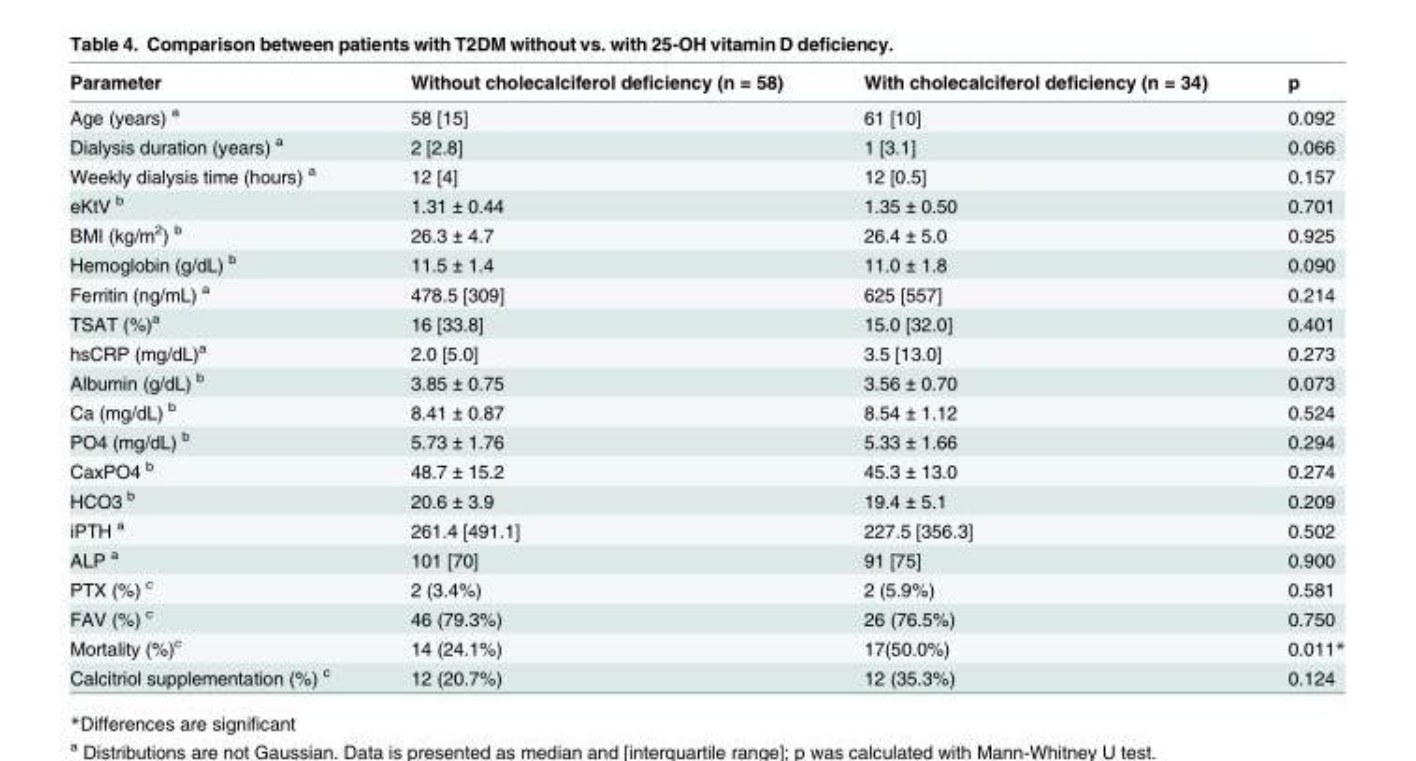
<table><thead><tr><td>Parameter</td><td>Without cholecalciferol deficiency (n = 58)</td><td>With cholecalciferol deficiency (n = 34)</td><td>p</td></tr></thead><tbody><tr><td>Age (years) <sup>a</sup></td><td>58 [15]</td><td>61 [10]</td><td>0.092</td></tr><tr><td>Dialysis duration (years) <sup>a</sup></td><td>2 [2.8]</td><td>1 [3.1]</td><td>0.066</td></tr><tr><td>Weekly dialysis time (hours) <sup>a</sup></td><td>12 [4]</td><td>12 [0.5]</td><td>0.157</td></tr><tr><td>eKtV <sup>b</sup></td><td>1.31 ± 0.44</td><td>1.35 ± 0.50</td><td>0.701</td></tr><tr><td>BMI (kg/m<sup>2</sup>) <sup>b</sup></td><td>26.3 ± 4.7</td><td>26.4 ± 5.0</td><td>0.925</td></tr><tr><td>Hemoglobin (g/dL) <sup>b</sup></td><td>11.5 ± 1.4</td><td>11.0 ± 1.8</td><td>0.090</td></tr><tr><td>Ferritin (ng/mL) <sup>a</sup></td><td>478.5 [309]</td><td>625 [557]</td><td>0.214</td></tr><tr><td>TSAT (%)<sup>a</sup></td><td>16 [33.8]</td><td>15.0 [32.0]</td><td>0.401</td></tr><tr><td>hsCRP (mg/dL)<sup>a</sup></td><td>2.0 [5.0]</td><td>3.5 [13.0]</td><td>0.273</td></tr><tr><td>Albumin (g/dL) <sup>b</sup></td><td>3.85 ± 0.75</td><td>3.56 ± 0.70</td><td>0.073</td></tr><tr><td>Ca (mg/dL) <sup>b</sup></td><td>8.41 ± 0.87</td><td>8.54 ± 1.12</td><td>0.524</td></tr><tr><td>PO4 (mg/dL) <sup>b</sup></td><td>5.73 ± 1.76</td><td>5.33 ± 1.66</td><td>0.294</td></tr><tr><td>CaxPO4 <sup>b</sup></td><td>48.7 ± 15.2</td><td>45.3 ± 13.0</td><td>0.274</td></tr><tr><td>HCO3 <sup>b</sup></td><td>20.6 ± 3.9</td><td>19.4 ± 5.1</td><td>0.209</td></tr><tr><td>iPTH <sup>a</sup></td><td>261.4 [491.1]</td><td>227.5 [356.3]</td><td>0.502</td></tr><tr><td>ALP <sup>a</sup></td><td>101 [70]</td><td>91 [75]</td><td>0.900</td></tr><tr><td>PTX (%) <sup>c</sup></td><td>2 (3.4%)</td><td>2 (5.9%)</td><td>0.581</td></tr><tr><td>FAV (%) <sup>c</sup></td><td>46 (79.3%)</td><td>26 (76.5%)</td><td>0.750</td></tr><tr><td>Mortality (%)<sup>c</sup></td><td>14 (24.1%)</td><td>17(50.0%)</td><td>0.011*</td></tr><tr><td>Calcitriol supplementation (%) <sup>c</sup></td><td>12 (20.7%)</td><td>12 (35.3%)</td><td>0.124</td></tr></tbody></table>